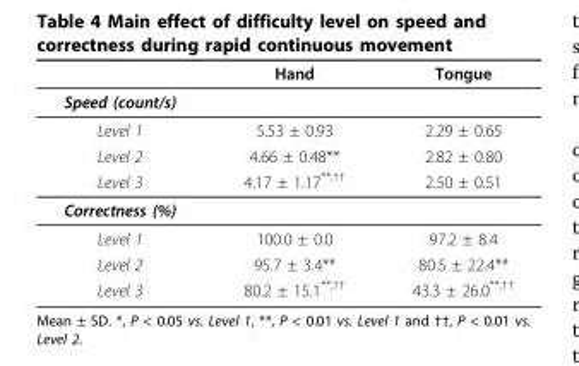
<table><thead><tr><td></td><td>Hand</td><td>Tongue</td></tr></thead><tbody><tr><td colspan="3">Speed (count/s)</td></tr><tr><td>Level 1</td><td>5.53 ± 0.93</td><td>2.29 ± 0.65</td></tr><tr><td>Level 2</td><td>4.66 ± 0.48**</td><td>2.82 ± 0.80</td></tr><tr><td>Level 3</td><td>4.17 ± 1.17<sup>**,††</sup></td><td>2.50 ± 0.51</td></tr><tr><td colspan="3">Correctness (%)</td></tr><tr><td>Level 1</td><td>100.0 ± 0.0</td><td>97.2 ± 8.4</td></tr><tr><td>Level 2</td><td>95.7 ± 3.4**</td><td>80.5 ± 22.4**</td></tr><tr><td>Level 3</td><td>80.2 ± 15.1<sup>**,††</sup></td><td>43.3 ± 26.0<sup>**,††</sup></td></tr></tbody></table>